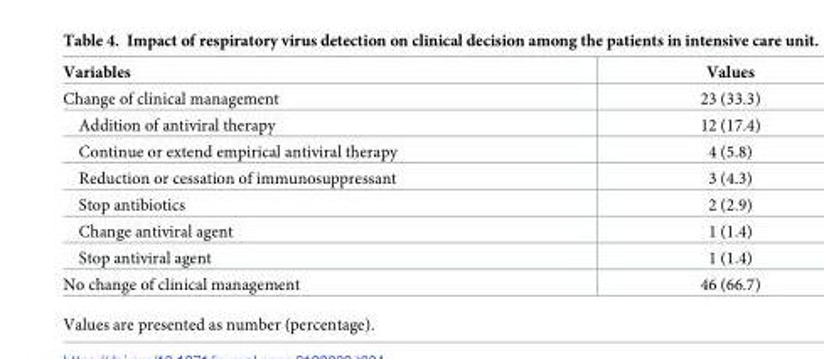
<table><thead><tr><td>Variables</td><td>Values</td></tr></thead><tbody><tr><td>Change of clinical management</td><td>23 (33.3)</td></tr><tr><td>Addition of antiviral therapy</td><td>12 (17.4)</td></tr><tr><td>Continue or extend empirical antiviral therapy</td><td>4 (5.8)</td></tr><tr><td>Reduction or cessation of immunosuppressant</td><td>3 (4.3)</td></tr><tr><td>Stop antibiotics</td><td>2 (2.9)</td></tr><tr><td>Change antiviral agent</td><td>1 (1.4)</td></tr><tr><td>Stop antiviral agent</td><td>1 (1.4)</td></tr><tr><td>No change of clinical management</td><td>46 (66.7)</td></tr></tbody></table>